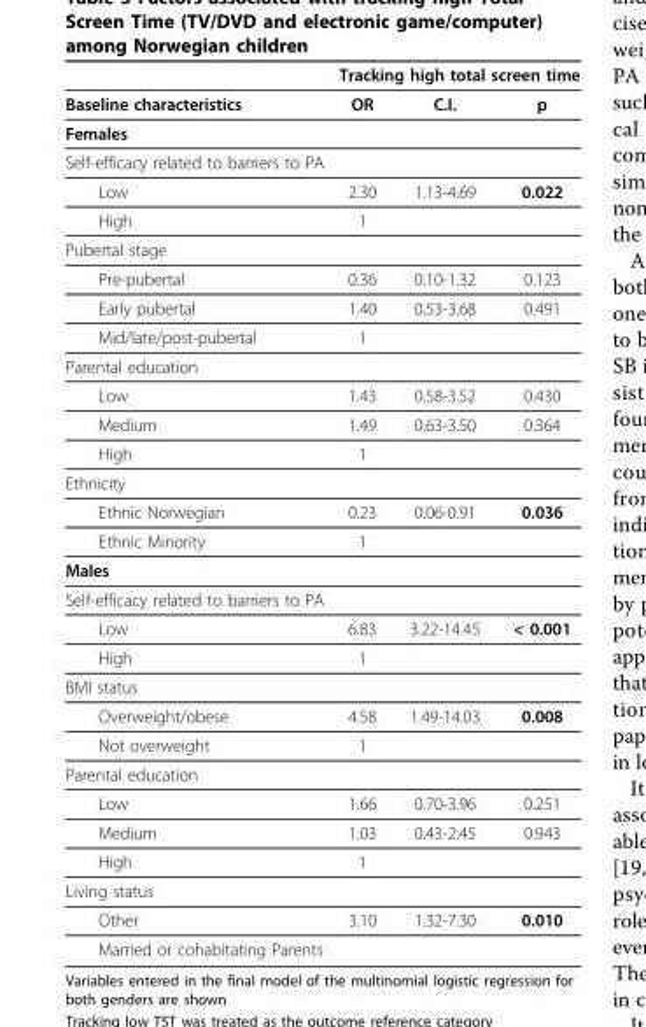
<table><thead><tr><td rowspan="2">Baseline characteristics</td><td colspan="3">Tracking high total screen time</td></tr><tr><td>OR</td><td>C.I.</td><td>p</td></tr></thead><tbody><tr><td colspan="4">Females</td></tr><tr><td colspan="4">Self-efficacy related to barriers to PA</td></tr><tr><td>Low</td><td>2.30</td><td>1.13-4.69</td><td>0.022</td></tr><tr><td>High</td><td>1</td><td></td><td></td></tr><tr><td colspan="4">Pubertal stage</td></tr><tr><td>Pre-pubertal</td><td>0.36</td><td>0.10-1.32</td><td>0.123</td></tr><tr><td>Early pubertal</td><td>1.40</td><td>0.53-3.68</td><td>0.491</td></tr><tr><td>Mid/late/post-pubertal</td><td>1</td><td></td><td></td></tr><tr><td colspan="4">Parental education</td></tr><tr><td>Low</td><td>1.43</td><td>0.58-3.52</td><td>0.430</td></tr><tr><td>Medium</td><td>1.49</td><td>0.63-3.50</td><td>0.364</td></tr><tr><td>High</td><td>1</td><td></td><td></td></tr><tr><td colspan="4">Ethnicity</td></tr><tr><td>Ethnic Norwegian</td><td>0.23</td><td>0.06-0.91</td><td>0.036</td></tr><tr><td>Ethnic Minority</td><td>1</td><td></td><td></td></tr><tr><td colspan="4">Males</td></tr><tr><td colspan="4">Self-efficacy related to barriers to PA</td></tr><tr><td>Low</td><td>6.83</td><td>3.22-14.45</td><td>&lt; 0.001</td></tr><tr><td>High</td><td>1</td><td></td><td></td></tr><tr><td colspan="4">BMI status</td></tr><tr><td>Overweight/obese</td><td>4.58</td><td>1.49-14.03</td><td>0.008</td></tr><tr><td>Not overweight</td><td>1</td><td></td><td></td></tr><tr><td colspan="4">Parental education</td></tr><tr><td>Low</td><td>1.66</td><td>0.70-3.96</td><td>0.251</td></tr><tr><td>Medium</td><td>1.03</td><td>0.43-2.45</td><td>0.943</td></tr><tr><td>High</td><td>1</td><td></td><td></td></tr><tr><td colspan="4">Living status</td></tr><tr><td>Other</td><td>3.10</td><td>1.32-7.30</td><td>0.010</td></tr><tr><td>Married or cohabitating Parents</td><td></td><td></td><td></td></tr></tbody></table>